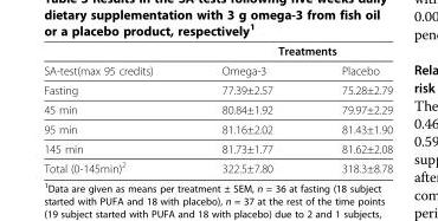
<table><thead><tr><td colspan="3">Treatments</td></tr><tr><td>SA-test(max 95 credits)</td><td>Omega-3</td><td>Placebo</td></tr></thead><tbody><tr><td>Fasting</td><td>77.39±2.57</td><td>75.28±2.79</td></tr><tr><td>45 min</td><td>80.84±1.92</td><td>79.97±2.29</td></tr><tr><td>95 min</td><td>81.16±2.02</td><td>81.43±1.90</td></tr><tr><td>145 min</td><td>81.73±1.77</td><td>81.62±2.08</td></tr><tr><td>Total (0-145min)<sup>2</sup></td><td>322.5±7.80</td><td>318.3±8.78</td></tr></tbody></table>